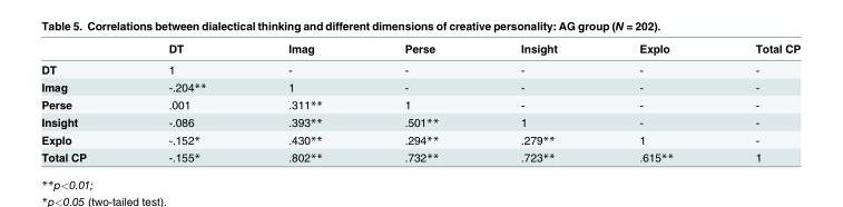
<table><thead><tr><td></td><td>DT</td><td>Imag</td><td>Perse</td><td>Insight</td><td>Explo</td><td>Total CP</td></tr></thead><tbody><tr><td>DT</td><td>1</td><td>-</td><td>-</td><td>-</td><td>-</td><td>-</td></tr><tr><td>Imag</td><td>-.204**</td><td>1</td><td>-</td><td>-</td><td>-</td><td>-</td></tr><tr><td>Perse</td><td>.001</td><td>.311**</td><td>1</td><td>-</td><td>-</td><td>-</td></tr><tr><td>Insight</td><td>-.086</td><td>.393**</td><td>.501**</td><td>1</td><td>-</td><td>-</td></tr><tr><td>Explo</td><td>-.152*</td><td>.430**</td><td>.294**</td><td>.279**</td><td>1</td><td>-</td></tr><tr><td>Total CP</td><td>-.155*</td><td>.802**</td><td>.732**</td><td>.723**</td><td>.615**</td><td>1</td></tr></tbody></table>